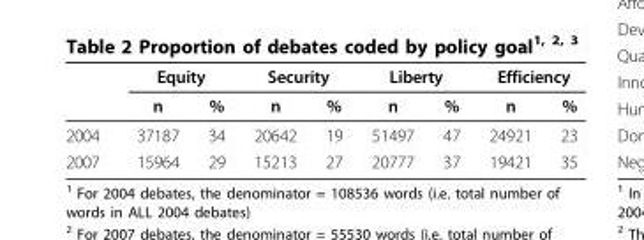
<table><thead><tr><td rowspan="2"></td><td colspan="2">Equity</td><td colspan="2">Security</td><td colspan="2">Liberty</td><td colspan="2">Efficiency</td></tr><tr><td>n</td><td>%</td><td>n</td><td>%</td><td>n</td><td>%</td><td>n</td><td>%</td></tr></thead><tbody><tr><td>2004</td><td>37187</td><td>34</td><td>20642</td><td>19</td><td>51497</td><td>47</td><td>24921</td><td>23</td></tr><tr><td>2007</td><td>15964</td><td>29</td><td>15213</td><td>27</td><td>20777</td><td>37</td><td>19421</td><td>35</td></tr></tbody></table>